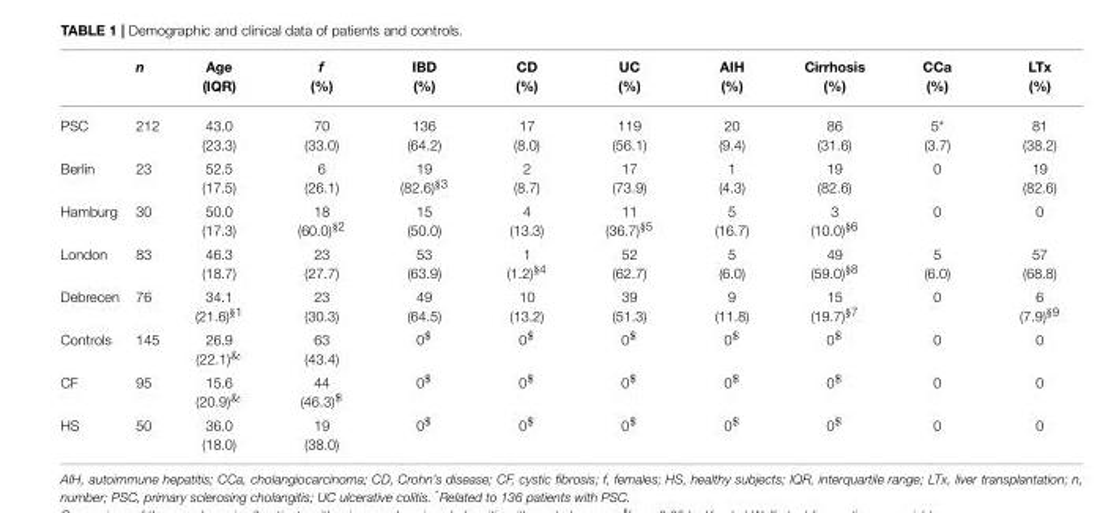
<table><thead><tr><td></td><td>n</td><td>Age (IQR)</td><td>f (%)</td><td>IBD (%)</td><td>CD (%)</td><td>UC (%)</td><td>AIH (%)</td><td>Cirrhosis (%)</td><td>CCa (%)</td><td>LTx (%)</td></tr></thead><tbody><tr><td>PSC</td><td>212</td><td>43.0 (23.3)</td><td>70 (33.0)</td><td>136 (64.2)</td><td>17 (8.0)</td><td>119 (56.1)</td><td>20 (9.4)</td><td>86 (31.6)</td><td>5* (3.7)</td><td>81 (38.2)</td></tr><tr><td>Berlin</td><td>23</td><td>52.5 (17.5)</td><td>6 (26.1)</td><td>19 (82.6)<sup>§3</sup></td><td>2 (8.7)</td><td>17 (73.9)</td><td>1 (4.3)</td><td>19 (82.6)</td><td>0</td><td>19 (82.6)</td></tr><tr><td>Hamburg</td><td>30</td><td>50.0 (17.3)</td><td>18 (60.0)<sup>§2</sup></td><td>15 (50.0)</td><td>4 (13.3)</td><td>11 (36.7)<sup>§5</sup></td><td>5 (16.7)</td><td>3 (10.0)<sup>§6</sup></td><td>0</td><td>0</td></tr><tr><td>London</td><td>83</td><td>46.3 (18.7)</td><td>23 (27.7)</td><td>53 (63.9)</td><td>1 (1.2)<sup>§4</sup></td><td>52 (62.7)</td><td>5 (6.0)</td><td>49 (59.0)<sup>§8</sup></td><td>5 (6.0)</td><td>57 (68.8)</td></tr><tr><td>Debrecen</td><td>76</td><td>34.1 (21.6)<sup>§1</sup></td><td>23 (30.3)</td><td>49 (64.5)</td><td>10 (13.2)</td><td>39 (51.3)</td><td>9 (11.8)</td><td>15 (19.7)<sup>§7</sup></td><td>0</td><td>6 (7.9)<sup>§9</sup></td></tr><tr><td>Controls</td><td>145</td><td>26.9 (22.1)<sup>&amp;</sup></td><td>63 (43.4)</td><td>0<sup>$</sup></td><td>0<sup>$</sup></td><td>0<sup>$</sup></td><td>0<sup>$</sup></td><td>0<sup>$</sup></td><td>0</td><td>0</td></tr><tr><td>CF</td><td>95</td><td>15.6 (20.9)<sup>&amp;</sup></td><td>44 (46.3)<sup>$</sup></td><td>0<sup>$</sup></td><td>0<sup>$</sup></td><td>0<sup>$</sup></td><td>0<sup>$</sup></td><td>0<sup>$</sup></td><td>0</td><td>0</td></tr><tr><td>HS</td><td>50</td><td>36.0 (18.0)</td><td>19 (38.0)</td><td>0<sup>$</sup></td><td>0<sup>$</sup></td><td>0<sup>$</sup></td><td>0<sup>$</sup></td><td>0<sup>$</sup></td><td>0</td><td>0</td></tr></tbody></table>